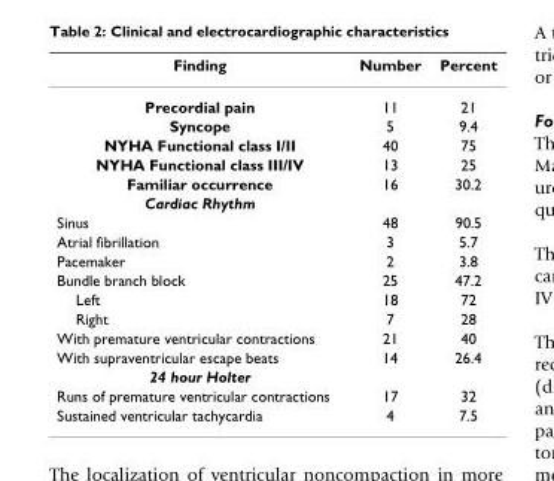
<table><thead><tr><td>Finding</td><td>Number</td><td>Percent</td></tr></thead><tbody><tr><td>Precordial pain</td><td>11</td><td>21</td></tr><tr><td>Syncope</td><td>5</td><td>9.4</td></tr><tr><td>NYHA Functional class I/II</td><td>40</td><td>75</td></tr><tr><td>NYHA Functional class III/IV</td><td>13</td><td>25</td></tr><tr><td>Familiar occurrence</td><td>16</td><td>30.2</td></tr><tr><td colspan="3">Cardiac Rhythm</td></tr><tr><td>Sinus</td><td>48</td><td>90.5</td></tr><tr><td>Atrial fibrillation</td><td>3</td><td>5.7</td></tr><tr><td>Pacemaker</td><td>2</td><td>3.8</td></tr><tr><td>Bundle branch block</td><td>25</td><td>47.2</td></tr><tr><td>Left</td><td>18</td><td>72</td></tr><tr><td>Right</td><td>7</td><td>28</td></tr><tr><td>With premature ventricular contractions</td><td>21</td><td>40</td></tr><tr><td>With supraventricular escape beats</td><td>14</td><td>26.4</td></tr><tr><td colspan="3">24 hour Holter</td></tr><tr><td>Runs of premature ventricular contractions</td><td>17</td><td>32</td></tr><tr><td>Sustained ventricular tachycardia</td><td>4</td><td>7.5</td></tr></tbody></table>